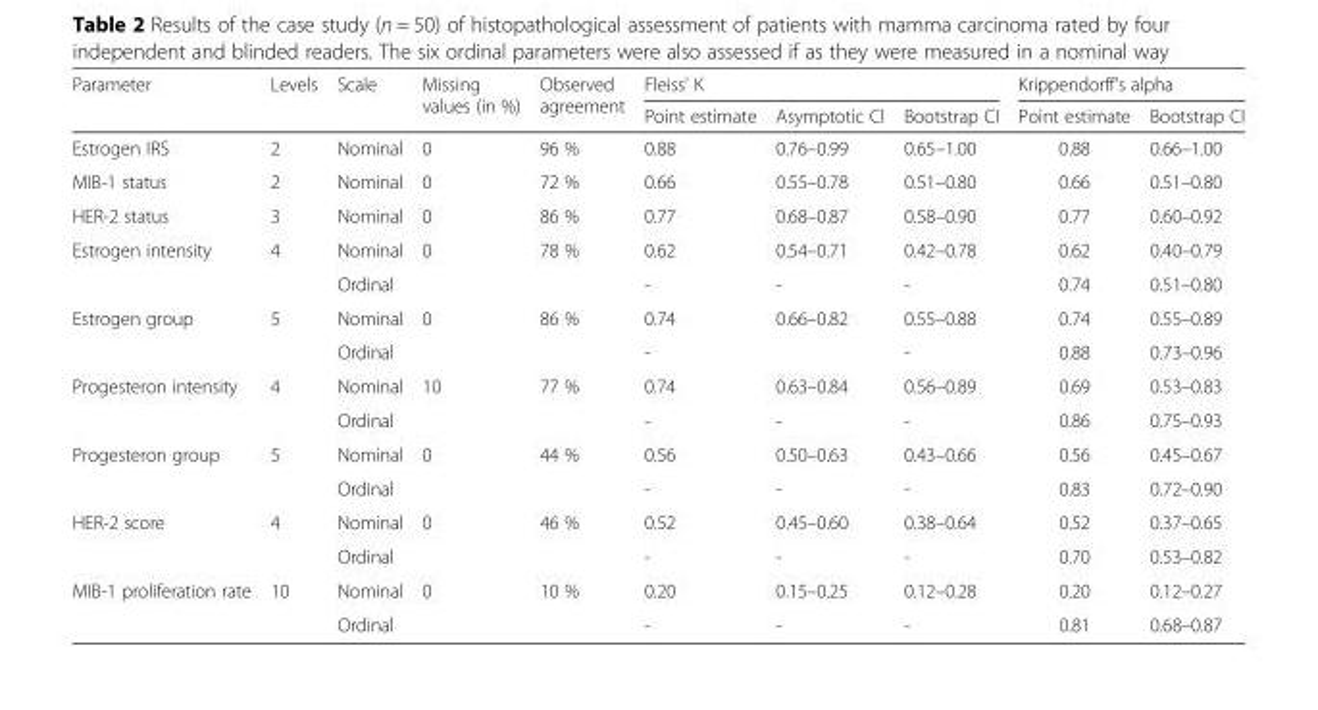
<table><thead><tr><td rowspan="2">Parameter</td><td rowspan="2">Levels</td><td rowspan="2">Scale</td><td rowspan="2">Missing values (in %)</td><td rowspan="2">Observed agreement</td><td colspan="3">Fleiss’ K</td><td colspan="2">Krippendorff’s alpha</td></tr><tr><td>Point estimate</td><td>Asymptotic CI</td><td>Bootstrap CI</td><td>Point estimate</td><td>Bootstrap CI</td></tr></thead><tbody><tr><td>Estrogen IRS</td><td>2</td><td>Nominal</td><td>0</td><td>96 %</td><td>0.88</td><td>0.76–0.99</td><td>0.65–1.00</td><td>0.88</td><td>0.66–1.00</td></tr><tr><td>MIB-1 status</td><td>2</td><td>Nominal</td><td>0</td><td>72 %</td><td>0.66</td><td>0.55–0.78</td><td>0.51–0.80</td><td>0.66</td><td>0.51–0.80</td></tr><tr><td>HER-2 status</td><td>3</td><td>Nominal</td><td>0</td><td>86 %</td><td>0.77</td><td>0.68–0.87</td><td>0.58–0.90</td><td>0.77</td><td>0.60–0.92</td></tr><tr><td rowspan="2">Estrogen intensity</td><td rowspan="2">4</td><td>Nominal</td><td rowspan="2">0</td><td rowspan="2">78 %</td><td>0.62</td><td>0.54–0.71</td><td>0.42–0.78</td><td>0.62</td><td>0.40–0.79</td></tr><tr><td>Ordinal</td><td>-</td><td>-</td><td>-</td><td>0.74</td><td>0.51–0.80</td></tr><tr><td rowspan="2">Estrogen group</td><td rowspan="2">5</td><td>Nominal</td><td rowspan="2">0</td><td rowspan="2">86 %</td><td>0.74</td><td>0.66–0.82</td><td>0.55–0.88</td><td>0.74</td><td>0.55–0.89</td></tr><tr><td>Ordinal</td><td>-</td><td></td><td>-</td><td>0.88</td><td>0.73–0.96</td></tr><tr><td rowspan="2">Progesteron intensity</td><td rowspan="2">4</td><td>Nominal</td><td rowspan="2">10</td><td rowspan="2">77 %</td><td>0.74</td><td>0.63–0.84</td><td>0.56–0.89</td><td>0.69</td><td>0.53–0.83</td></tr><tr><td>Ordinal</td><td>-</td><td>-</td><td>-</td><td>0.86</td><td>0.75–0.93</td></tr><tr><td rowspan="2">Progesteron group</td><td rowspan="2">5</td><td>Nominal</td><td rowspan="2">0</td><td rowspan="2">44 %</td><td>0.56</td><td>0.50–0.63</td><td>0.43–0.66</td><td>0.56</td><td>0.45–0.67</td></tr><tr><td>Ordinal</td><td>-</td><td>-</td><td>-</td><td>0.83</td><td>0.72–0.90</td></tr><tr><td rowspan="2">HER-2 score</td><td rowspan="2">4</td><td>Nominal</td><td rowspan="2">0</td><td rowspan="2">46 %</td><td>0.52</td><td>0.45–0.60</td><td>0.38–0.64</td><td>0.52</td><td>0.37–0.65</td></tr><tr><td>Ordinal</td><td>-</td><td>-</td><td>-</td><td>0.70</td><td>0.53–0.82</td></tr><tr><td rowspan="2">MIB-1 proliferation rate</td><td rowspan="2">10</td><td>Nominal</td><td rowspan="2">0</td><td rowspan="2">10 %</td><td>0.20</td><td>0.15–0.25</td><td>0.12–0.28</td><td>0.20</td><td>0.12–0.27</td></tr><tr><td>Ordinal</td><td>-</td><td>-</td><td>-</td><td>0.81</td><td>0.68–0.87</td></tr></tbody></table>